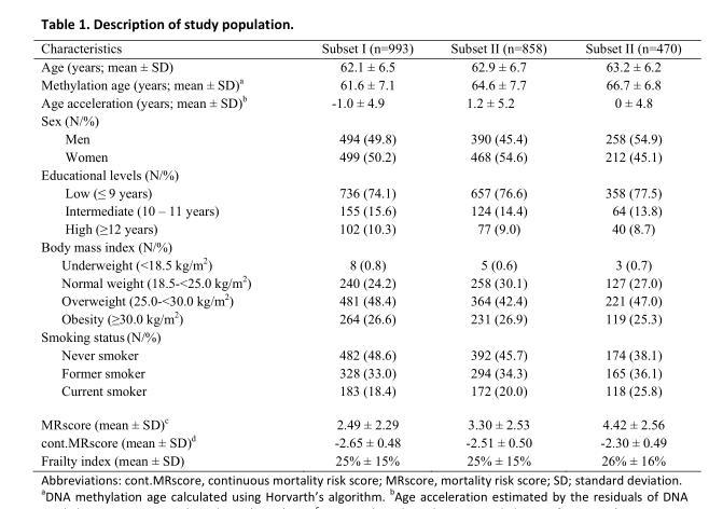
<table><tbody><tr><td>Characteristics</td><td>Subset I (n=993)</td><td>Subset II (n=858)</td><td>Subset II (n=470)</td></tr><tr><td>Age (years; mean ± SD)</td><td>62.1 ± 6.5</td><td>62.9 ± 6.7</td><td>63.2 ± 6.2</td></tr><tr><td>Methylation age (years; mean ± SD)<sup>a</sup></td><td>61.6 ± 7.1</td><td>64.6 ± 7.7</td><td>66.7 ± 6.8</td></tr><tr><td>Age acceleration (years; mean ± SD)<sup>b</sup></td><td>-1.0 ± 4.9</td><td>1.2 ± 5.2</td><td>0 ± 4.8</td></tr><tr><td colspan="4">Sex (N/%)</td></tr><tr><td>Men</td><td>494 (49.8)</td><td>390 (45.4)</td><td>258 (54.9)</td></tr><tr><td>Women</td><td>499 (50.2)</td><td>468 (54.6)</td><td>212 (45.1)</td></tr><tr><td colspan="4">Educational levels (N/%)</td></tr><tr><td>Low (≤ 9 years)</td><td>736 (74.1)</td><td>657 (76.6)</td><td>358 (77.5)</td></tr><tr><td>Intermediate (10 – 11 years)</td><td>155 (15.6)</td><td>124 (14.4)</td><td>64 (13.8)</td></tr><tr><td>High (≥12 years)</td><td>102 (10.3)</td><td>77 (9.0)</td><td>40 (8.7)</td></tr><tr><td colspan="4">Body mass index (N/%)</td></tr><tr><td>Underweight (&lt;18.5 kg/m<sup>2</sup>)</td><td>8 (0.8)</td><td>5 (0.6)</td><td>3 (0.7)</td></tr><tr><td>Normal weight (18.5-&lt;25.0 kg/m<sup>2</sup>)</td><td>240 (24.2)</td><td>258 (30.1)</td><td>127 (27.0)</td></tr><tr><td>Overweight (25.0-&lt;30.0 kg/m<sup>2</sup>)</td><td>481 (48.4)</td><td>364 (42.4)</td><td>221 (47.0)</td></tr><tr><td>Obesity (≥30.0 kg/m<sup>2</sup>)</td><td>264 (26.6)</td><td>231 (26.9)</td><td>119 (25.3)</td></tr><tr><td colspan="4">Smoking status (N/%)</td></tr><tr><td>Never smoker</td><td>482 (48.6)</td><td>392 (45.7)</td><td>174 (38.1)</td></tr><tr><td>Former smoker</td><td>328 (33.0)</td><td>294 (34.3)</td><td>165 (36.1)</td></tr><tr><td>Current smoker</td><td>183 (18.4)</td><td>172 (20.0)</td><td>118 (25.8)</td></tr><tr><td>MRscore (mean ± SD)<sup>c</sup></td><td>2.49 ± 2.29</td><td>3.30 ± 2.53</td><td>4.42 ± 2.56</td></tr><tr><td>cont.MRscore (mean ± SD)<sup>d</sup></td><td>-2.65 ± 0.48</td><td>-2.51 ± 0.50</td><td>-2.30 ± 0.49</td></tr><tr><td>Frailty index (mean ± SD)</td><td>25% ± 15%</td><td>25% ± 15%</td><td>26% ± 16%</td></tr></tbody></table>